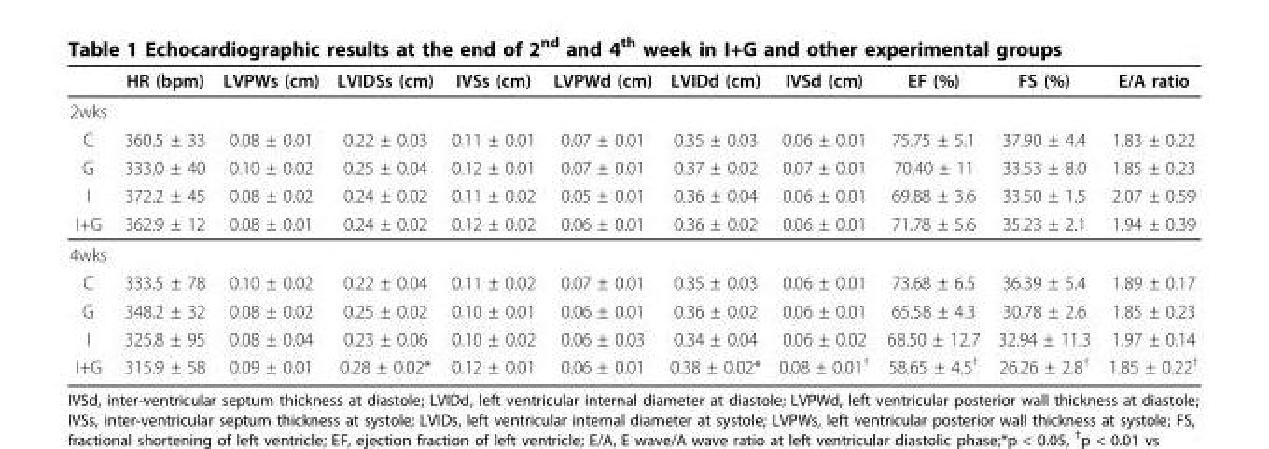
<table><thead><tr><td></td><td>HR (bpm)</td><td>LVPWs (cm)</td><td>LVIDSs (cm)</td><td>IVSs (cm)</td><td>LVPWd (cm)</td><td>LVIDd (cm)</td><td>IVSd (cm)</td><td>EF (%)</td><td>FS (%)</td><td>E/A ratio</td></tr></thead><tbody><tr><td colspan="11">2wks</td></tr><tr><td>C</td><td>360.5 ± 33</td><td>0.08 ± 0.01</td><td>0.22 ± 0.03</td><td>0.11 ± 0.01</td><td>0.07 ± 0.01</td><td>0.35 ± 0.03</td><td>0.06 ± 0.01</td><td>75.75 ± 5.1</td><td>37.90 ± 4.4</td><td>1.83 ± 0.22</td></tr><tr><td>G</td><td>333.0 ± 40</td><td>0.10 ± 0.02</td><td>0.25 ± 0.04</td><td>0.12 ± 0.01</td><td>0.07 ± 0.01</td><td>0.37 ± 0.02</td><td>0.07 ± 0.01</td><td>70.40 ± 11</td><td>33.53 ± 8.0</td><td>1.85 ± 0.23</td></tr><tr><td>I</td><td>372.2 ± 45</td><td>0.08 ± 0.02</td><td>0.24 ± 0.02</td><td>0.11 ± 0.02</td><td>0.05 ± 0.01</td><td>0.36 ± 0.04</td><td>0.06 ± 0.01</td><td>69.88 ± 3.6</td><td>33.50 ± 1.5</td><td>2.07 ± 0.59</td></tr><tr><td>I+G</td><td>362.9 ± 12</td><td>0.08 ± 0.01</td><td>0.24 ± 0.02</td><td>0.12 ± 0.02</td><td>0.06 ± 0.01</td><td>0.36 ± 0.02</td><td>0.06 ± 0.01</td><td>71.78 ± 5.6</td><td>35.23 ± 2.1</td><td>1.94 ± 0.39</td></tr><tr><td colspan="11">4wks</td></tr><tr><td>C</td><td>333.5 ± 78</td><td>0.10 ± 0.02</td><td>0.22 ± 0.04</td><td>0.11 ± 0.02</td><td>0.07 ± 0.01</td><td>0.35 ± 0.03</td><td>0.06 ± 0.01</td><td>73.68 ± 6.5</td><td>36.39 ± 5.4</td><td>1.89 ± 0.17</td></tr><tr><td>G</td><td>348.2 ± 32</td><td>0.08 ± 0.02</td><td>0.25 ± 0.02</td><td>0.10 ± 0.01</td><td>0.06 ± 0.01</td><td>0.36 ± 0.02</td><td>0.06 ± 0.01</td><td>65.58 ± 4.3</td><td>30.78 ± 2.6</td><td>1.85 ± 0.23</td></tr><tr><td>I</td><td>325.8 ± 95</td><td>0.08 ± 0.04</td><td>0.23 ± 0.06</td><td>0.10 ± 0.02</td><td>0.06 ± 0.03</td><td>0.34 ± 0.04</td><td>0.06 ± 0.02</td><td>68.50 ± 12.7</td><td>32.94 ± 11.3</td><td>1.97 ± 0.14</td></tr><tr><td>I+G</td><td>315.9 ± 58</td><td>0.09 ± 0.01</td><td>0.28 ± 0.02*</td><td>0.12 ± 0.01</td><td>0.06 ± 0.01</td><td>0.38 ± 0.02*</td><td>0.08 ± 0.01<sup>†</sup></td><td>58.65 ± 4.5<sup>†</sup></td><td>26.26 ± 2.8<sup>†</sup></td><td>1.85 ± 0.22<sup>†</sup></td></tr></tbody></table>